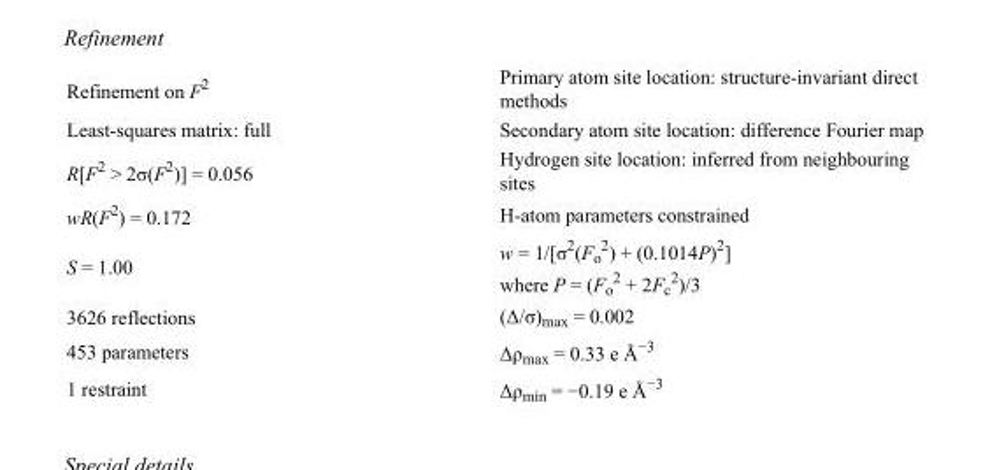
<table><tbody><tr><td>Refinement on F<sup>2</sup></td><td>Primary atom site location: structure-invariant direct methods</td></tr><tr><td>Least-squares matrix: full</td><td>Secondary atom site location: difference Fourier map</td></tr><tr><td>R[F<sup>2</sup> &gt; 2σ(F<sup>2</sup>)] = 0.056</td><td>Hydrogen site location: inferred from neighbouring sites</td></tr><tr><td>wR(F<sup>2</sup>) = 0.172</td><td>H-atom parameters constrained</td></tr><tr><td>S = 1.00</td><td>w = 1/[σ<sup>2</sup>(F<sub>o</sub> <sup>2</sup>) + (0.1014P)<sup>2</sup>] where P = (F<sub>o</sub> <sup>2</sup> + 2F<sub>c</sub> <sup>2</sup>)/3</td></tr><tr><td>3626 reflections</td><td>(Δ/σ)<sub>max</sub> = 0.002</td></tr><tr><td>453 parameters</td><td>Δρ<sub>max</sub> = 0.33 e Å<sup>−3</sup></td></tr><tr><td>1 restraint</td><td>Δρ<sub>min</sub> = −0.19 e Å<sup>−3</sup></td></tr></tbody></table>